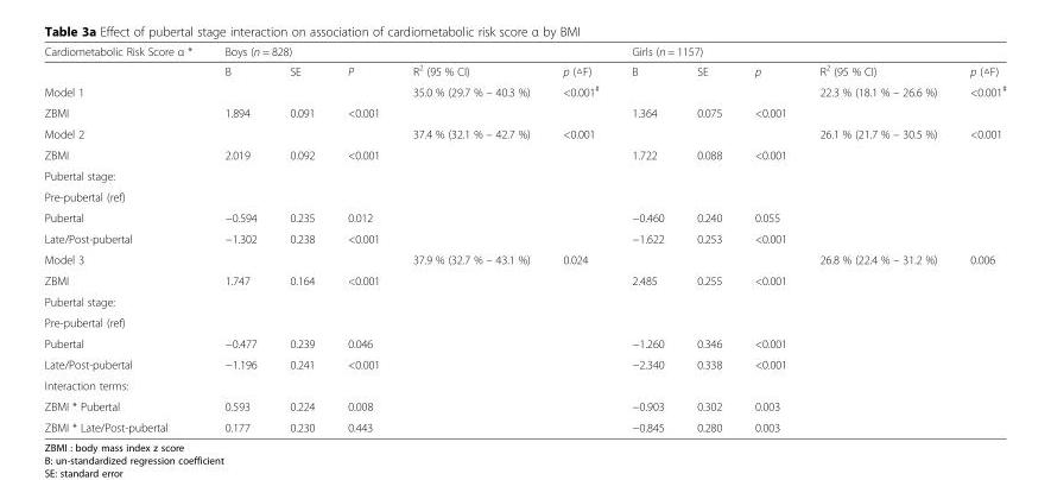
<table><thead><tr><td rowspan="2">Cardiometabolic Risk Score α *</td><td colspan="5">Boys (n = 828)</td><td colspan="5">Girls (n = 1157)</td></tr><tr><td>B</td><td>SE</td><td>P</td><td>R<sup>2</sup> (95 % CI)</td><td>p (△F)</td><td>B</td><td>SE</td><td>p</td><td>R<sup>2</sup> (95 % CI)</td><td>p (△F)</td></tr></thead><tbody><tr><td>Model 1</td><td></td><td></td><td></td><td>35.0 % (29.7 % – 40.3 %)</td><td>&lt;0.001<sup>#</sup></td><td></td><td></td><td></td><td>22.3 % (18.1 % – 26.6 %)</td><td>&lt;0.001<sup>#</sup></td></tr><tr><td>ZBMI</td><td>1.894</td><td>0.091</td><td>&lt;0.001</td><td></td><td></td><td>1.364</td><td>0.075</td><td>&lt;0.001</td><td></td><td></td></tr><tr><td>Model 2</td><td></td><td></td><td></td><td>37.4 % (32.1 % – 42.7 %)</td><td>&lt;0.001</td><td></td><td></td><td></td><td>26.1 % (21.7 % – 30.5 %)</td><td>&lt;0.001</td></tr><tr><td>ZBMI</td><td>2.019</td><td>0.092</td><td>&lt;0.001</td><td></td><td></td><td>1.722</td><td>0.088</td><td>&lt;0.001</td><td></td><td></td></tr><tr><td colspan="11">Pubertal stage:</td></tr><tr><td colspan="11">Pre-pubertal (ref)</td></tr><tr><td>Pubertal</td><td>−0.594</td><td>0.235</td><td>0.012</td><td></td><td></td><td>−0.460</td><td>0.240</td><td>0.055</td><td></td><td></td></tr><tr><td>Late/Post-pubertal</td><td>−1.302</td><td>0.238</td><td>&lt;0.001</td><td></td><td></td><td>−1.622</td><td>0.253</td><td>&lt;0.001</td><td></td><td></td></tr><tr><td>Model 3</td><td></td><td></td><td></td><td>37.9 % (32.7 % – 43.1 %)</td><td>0.024</td><td></td><td></td><td></td><td>26.8 % (22.4 % – 31.2 %)</td><td>0.006</td></tr><tr><td>ZBMI</td><td>1.747</td><td>0.164</td><td>&lt;0.001</td><td></td><td></td><td>2.485</td><td>0.255</td><td>&lt;0.001</td><td></td><td></td></tr><tr><td colspan="11">Pubertal stage:</td></tr><tr><td colspan="11">Pre-pubertal (ref)</td></tr><tr><td>Pubertal</td><td>−0.477</td><td>0.239</td><td>0.046</td><td></td><td></td><td>−1.260</td><td>0.346</td><td>&lt;0.001</td><td></td><td></td></tr><tr><td>Late/Post-pubertal</td><td>−1.196</td><td>0.241</td><td>&lt;0.001</td><td></td><td></td><td>−2.340</td><td>0.338</td><td>&lt;0.001</td><td></td><td></td></tr><tr><td colspan="11">Interaction terms:</td></tr><tr><td>ZBMI * Pubertal</td><td>0.593</td><td>0.224</td><td>0.008</td><td></td><td></td><td>−0.903</td><td>0.302</td><td>0.003</td><td></td><td></td></tr><tr><td>ZBMI * Late/Post-pubertal</td><td>0.177</td><td>0.230</td><td>0.443</td><td></td><td></td><td>−0.845</td><td>0.280</td><td>0.003</td><td></td><td></td></tr></tbody></table>